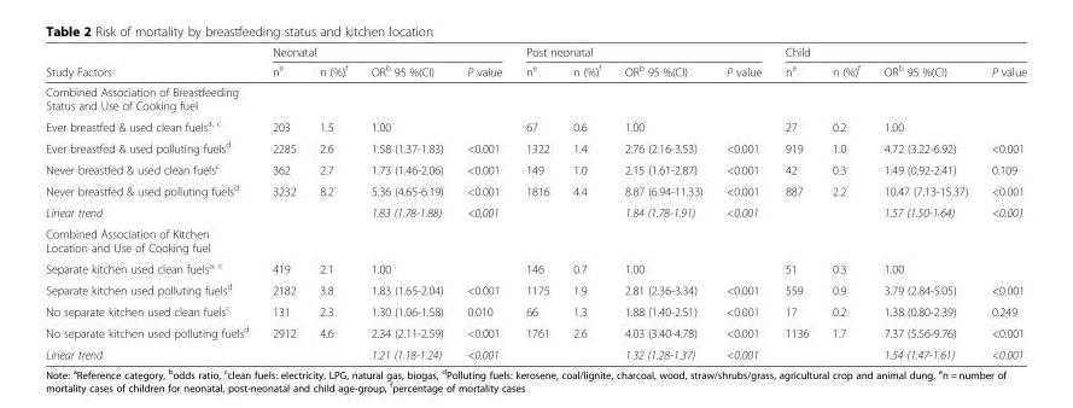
<table><thead><tr><td rowspan="2">Study Factors</td><td colspan="4">Neonatal</td><td colspan="4">Post neonatal</td><td colspan="4">Child</td></tr><tr><td>n<sup>e</sup></td><td>n (%)<sup>f</sup></td><td>OR<sup>b</sup> 95 %(CI)</td><td>P value</td><td>n<sup>e</sup></td><td>n (%)<sup>f</sup></td><td>OR<sup>b</sup> 95 %(CI)</td><td>P value</td><td>n<sup>e</sup></td><td>n (%)<sup>f</sup></td><td>OR<sup>b</sup> 95 %(CI)</td><td>P value</td></tr></thead><tbody><tr><td colspan="13">Combined Association of Breastfeeding Status and Use of Cooking fuel</td></tr><tr><td>Ever breastfed &amp; used clean fuels<sup>a, c</sup></td><td>203</td><td>1.5</td><td>1.00</td><td></td><td>67</td><td>0.6</td><td>1.00</td><td></td><td>27</td><td>0.2</td><td>1.00</td><td></td></tr><tr><td>Ever breastfed &amp; used polluting fuels<sup>d</sup></td><td>2285</td><td>2.6</td><td>1.58 (1.37-1.83)</td><td>&lt;0.001</td><td>1322</td><td>1.4</td><td>2.76 (2.16-3.53)</td><td>&lt;0.001</td><td>919</td><td>1.0</td><td>4.72 (3.22-6.92)</td><td>&lt;0.001</td></tr><tr><td>Never breastfed &amp; used clean fuels<sup>c</sup></td><td>362</td><td>2.7</td><td>1.73 (1.46-2.06)</td><td>&lt;0.001</td><td>149</td><td>1.0</td><td>2.15 (1.61-2.87)</td><td>&lt;0.001</td><td>42</td><td>0.3</td><td>1.49 (0.92-2.41)</td><td>0.109</td></tr><tr><td>Never breastfed &amp; used polluting fuels<sup>d</sup></td><td>3232</td><td>8.2</td><td>5.36 (4.65-6.19)</td><td>&lt;0.001</td><td>1816</td><td>4.4</td><td>8.87 (6.94-11.33)</td><td>&lt;0.001</td><td>887</td><td>2.2</td><td>10.47 (7.13-15.37)</td><td>&lt;0.001</td></tr><tr><td>Linear trend</td><td></td><td></td><td>1.83 (1.78-1.88)</td><td>&lt;0.001</td><td></td><td></td><td>1.84 (1.78-1.91)</td><td>&lt;0.001</td><td></td><td></td><td>1.57 (1.50-1.64)</td><td>&lt;0.001</td></tr><tr><td colspan="13">Combined Association of Kitchen Location and Use of Cooking fuel</td></tr><tr><td>Separate kitchen used clean fuels<sup>a, c</sup></td><td>419</td><td>2.1</td><td>1.00</td><td></td><td>146</td><td>0.7</td><td>1.00</td><td></td><td>51</td><td>0.3</td><td>1.00</td><td></td></tr><tr><td>Separate kitchen used polluting fuels<sup>d</sup></td><td>2182</td><td>3.8</td><td>1.83 (1.65-2.04)</td><td>&lt;0.001</td><td>1175</td><td>1.9</td><td>2.81 (2.36-3.34)</td><td>&lt;0.001</td><td>559</td><td>0.9</td><td>3.79 (2.84-5.05)</td><td>&lt;0.001</td></tr><tr><td>No separate kitchen used clean fuels<sup>c</sup></td><td>131</td><td>2.3</td><td>1.30 (1.06-1.58)</td><td>0.010</td><td>66</td><td>1.3</td><td>1.88 (1.40-2.51)</td><td>&lt;0.001</td><td>17</td><td>0.2</td><td>1.38 (0.80-2.39)</td><td>0.249</td></tr><tr><td>No separate kitchen used polluting fuels<sup>d</sup></td><td>2912</td><td>4.6</td><td>2.34 (2.11-2.59)</td><td>&lt;0.001</td><td>1761</td><td>2.6</td><td>4.03 (3.40-4.78)</td><td>&lt;0.001</td><td>1136</td><td>1.7</td><td>7.37 (5.56-9.76)</td><td>&lt;0.001</td></tr><tr><td>Linear trend</td><td></td><td></td><td>1.21 (1.18-1.24)</td><td>&lt;0.001</td><td></td><td></td><td>1.32 (1.28-1.37)</td><td>&lt;0.001</td><td></td><td></td><td>1.54 (1.47-1.61)</td><td>&lt;0.001</td></tr></tbody></table>